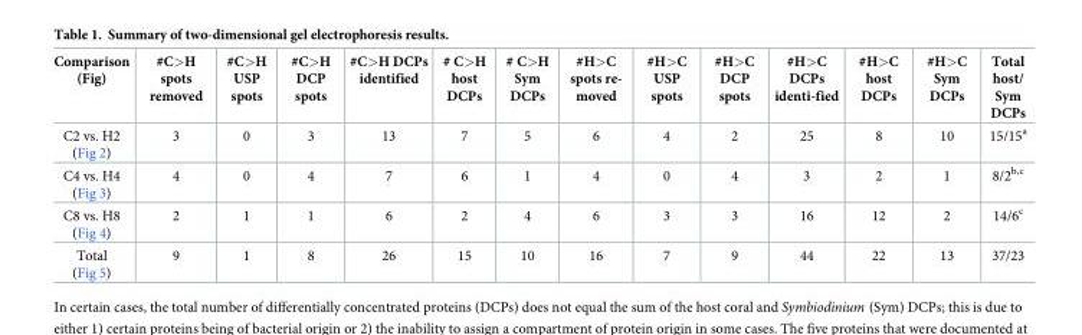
<table><thead><tr><td>Comparison (Fig)</td><td>#C&gt;H spots removed</td><td>#C&gt;H USP spots</td><td>#C&gt;H DCP spots</td><td>#C&gt;H DCPs identified</td><td># C&gt;H host DCPs</td><td># C&gt;H Sym DCPs</td><td>#H&gt;C spots re- moved</td><td>#H&gt;C USP spots</td><td>#H&gt;C DCP spots</td><td>#H&gt;C DCPs identi-fied</td><td>#H&gt;C host DCPs</td><td>#H&gt;C Sym DCPs</td><td>Total host/ Sym DCPs</td></tr></thead><tbody><tr><td>C2 vs. H2 (Fig 2)</td><td>3</td><td>0</td><td>3</td><td>13</td><td>7</td><td>5</td><td>6</td><td>4</td><td>2</td><td>25</td><td>8</td><td>10</td><td>15/15<sup>a</sup></td></tr><tr><td>C4 vs. H4 (Fig 3)</td><td>4</td><td>0</td><td>4</td><td>7</td><td>6</td><td>1</td><td>4</td><td>0</td><td>4</td><td>3</td><td>2</td><td>1</td><td>8/2<sup>b,c</sup></td></tr><tr><td>C8 vs. H8 (Fig 4)</td><td>2</td><td>1</td><td>1</td><td>6</td><td>2</td><td>4</td><td>6</td><td>3</td><td>3</td><td>16</td><td>12</td><td>2</td><td>14/6<sup>c</sup></td></tr><tr><td>Total (Fig 5)</td><td>9</td><td>1</td><td>8</td><td>26</td><td>15</td><td>10</td><td>16</td><td>7</td><td>9</td><td>44</td><td>22</td><td>13</td><td>37/23</td></tr></tbody></table>